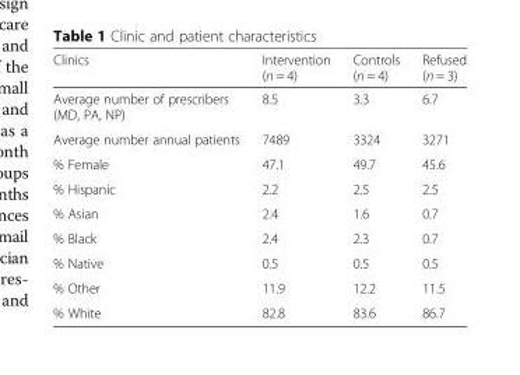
<table><thead><tr><td>Clinics</td><td>Intervention (n = 4)</td><td>Controls (n = 4)</td><td>Refused (n = 3)</td></tr></thead><tbody><tr><td>Average number of prescribers (MD, PA, NP)</td><td>8.5</td><td>3.3</td><td>6.7</td></tr><tr><td>Average number annual patients</td><td>7489</td><td>3324</td><td>3271</td></tr><tr><td>% Female</td><td>47.1</td><td>49.7</td><td>45.6</td></tr><tr><td>% Hispanic</td><td>2.2</td><td>2.5</td><td>2.5</td></tr><tr><td>% Asian</td><td>2.4</td><td>1.6</td><td>0.7</td></tr><tr><td>% Black</td><td>2.4</td><td>2.3</td><td>0.7</td></tr><tr><td>% Native</td><td>0.5</td><td>0.5</td><td>0.5</td></tr><tr><td>% Other</td><td>11.9</td><td>12.2</td><td>11.5</td></tr><tr><td>% White</td><td>82.8</td><td>83.6</td><td>86.7</td></tr></tbody></table>